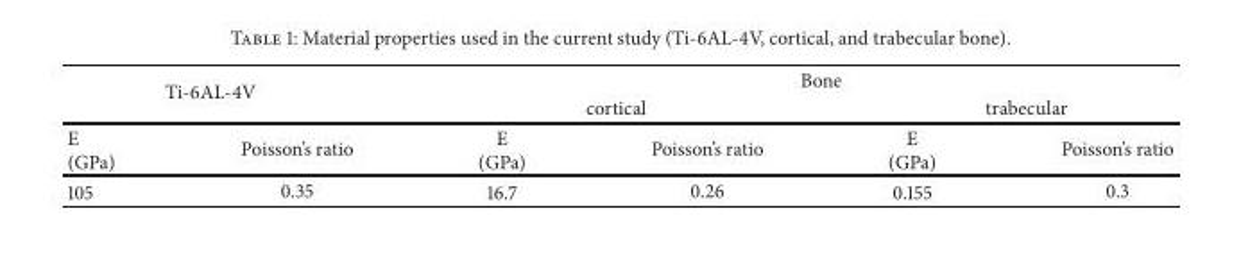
<table><thead><tr><td rowspan="2" colspan="2">Ti-6AL-4V</td><td colspan="4">Bone</td></tr><tr><td colspan="2">cortical</td><td colspan="2">trabecular</td></tr><tr><td>E (GPa)</td><td>Poisson’s ratio</td><td>E (GPa)</td><td>Poisson’s ratio</td><td>E (GPa)</td><td>Poisson’s ratio</td></tr></thead><tbody><tr><td>105</td><td>0.35</td><td>16.7</td><td>0.26</td><td>0.155</td><td>0.3</td></tr></tbody></table>